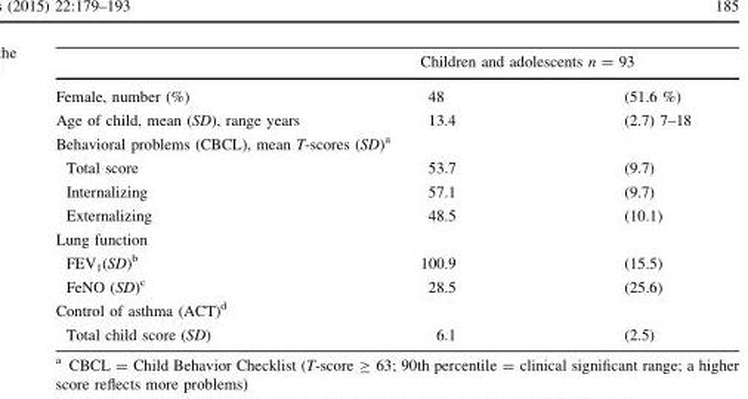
<table><thead><tr><td rowspan="2">Female, number (%)</td><td colspan="2">Children and adolescents n = 93</td></tr><tr><td>48</td><td>(51.6 %)</td></tr></thead><tbody><tr><td>Age of child, mean (SD), range years</td><td>13.4</td><td>(2.7) 7–18</td></tr><tr><td colspan="3">Behavioral problems (CBCL), mean T-scores (SD)<sup>a</sup></td></tr><tr><td>Total score</td><td>53.7</td><td>(9.7)</td></tr><tr><td>Internalizing</td><td>57.1</td><td>(9.7)</td></tr><tr><td>Externalizing</td><td>48.5</td><td>(10.1)</td></tr><tr><td colspan="3">Lung function</td></tr><tr><td>FEV<sub>1</sub>(SD)<sup>b</sup></td><td>100.9</td><td>(15.5)</td></tr><tr><td>FeNO (SD)<sup>c</sup></td><td>28.5</td><td>(25.6)</td></tr><tr><td colspan="3">Control of asthma (ACT)<sup>d</sup></td></tr><tr><td>Total child score (SD)</td><td>6.1</td><td>(2.5)</td></tr></tbody></table>